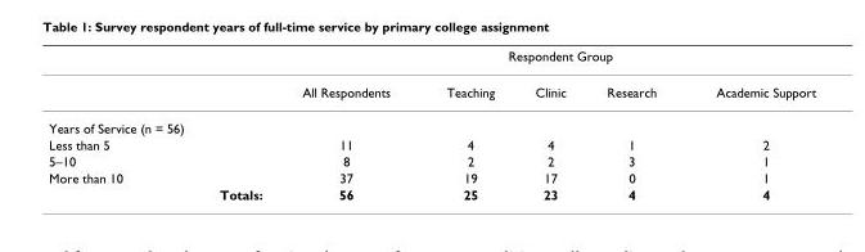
<table><thead><tr><td rowspan="2"></td><td colspan="5">Respondent Group</td></tr><tr><td>All Respondents</td><td>Teaching</td><td>Clinic</td><td>Research</td><td>Academic Support</td></tr></thead><tbody><tr><td colspan="6">Years of Service (n = 56)</td></tr><tr><td>Less than 5</td><td>11</td><td>4</td><td>4</td><td>1</td><td>2</td></tr><tr><td>5–10</td><td>8</td><td>2</td><td>2</td><td>3</td><td>1</td></tr><tr><td>More than 10</td><td>37</td><td>19</td><td>17</td><td>0</td><td>1</td></tr><tr><td>Totals:</td><td>56</td><td>25</td><td>23</td><td>4</td><td>4</td></tr></tbody></table>